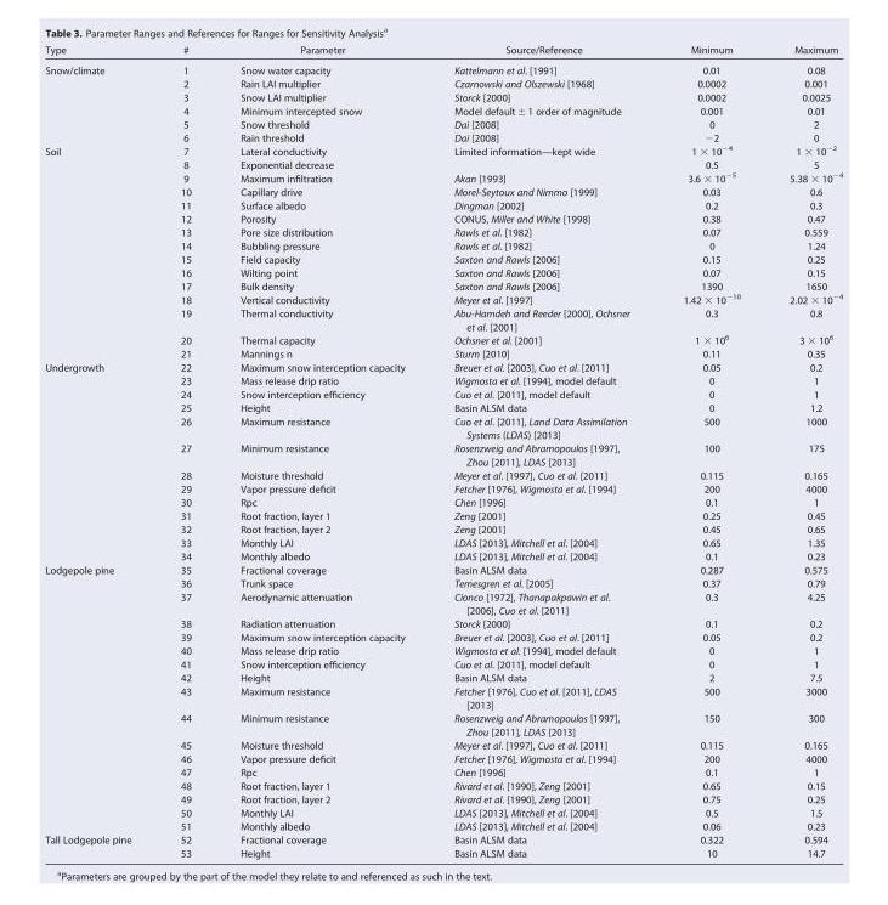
<table><thead><tr><td>Type</td><td>#</td><td>Parameter</td><td>Source/Reference</td><td>Minimum</td><td>Maximum</td></tr></thead><tbody><tr><td rowspan="6">Snow/climate</td><td>1</td><td>Snow water capacity</td><td>Kattelmann et al. [1991]</td><td>0.01</td><td>0.08</td></tr><tr><td>2</td><td>Rain LAI multiplier</td><td>Czarnowski and Olszewski [1968]</td><td>0.0002</td><td>0.001</td></tr><tr><td>3</td><td>Snow LAI multiplier</td><td>Storck [2000]</td><td>0.0002</td><td>0.0025</td></tr><tr><td>4</td><td>Minimum intercepted snow</td><td>Model default ± 1 order of magnitude</td><td>0.001</td><td>0.01</td></tr><tr><td>5</td><td>Snow threshold</td><td>Dai [2008]</td><td>0</td><td>2</td></tr><tr><td>6</td><td>Rain threshold</td><td>Dai [2008]</td><td>−2</td><td>0</td></tr><tr><td rowspan="15">Soil</td><td>7</td><td>Lateral conductivity</td><td rowspan="2">Limited information—kept wide</td><td>1 × 10<sup>−4</sup></td><td>1 × 10<sup>−2</sup></td></tr><tr><td>8</td><td>Exponential decrease</td><td>0.5</td><td>5</td></tr><tr><td>9</td><td>Maximum infiltration</td><td>Akan [1993]</td><td>3.6 × 10<sup>−5</sup></td><td>5.38 × 10<sup>−4</sup></td></tr><tr><td>10</td><td>Capillary drive</td><td>Morel-Seytoux and Nimmo [1999]</td><td>0.03</td><td>0.6</td></tr><tr><td>11</td><td>Surface albedo</td><td>Dingman [2002]</td><td>0.2</td><td>0.3</td></tr><tr><td>12</td><td>Porosity</td><td>CONUS, Miller and White [1998]</td><td>0.38</td><td>0.47</td></tr><tr><td>13</td><td>Pore size distribution</td><td>Rawls et al. [1982]</td><td>0.07</td><td>0.559</td></tr><tr><td>14</td><td>Bubbling pressure</td><td>Rawls et al. [1982]</td><td>0</td><td>1.24</td></tr><tr><td>15</td><td>Field capacity</td><td>Saxton and Rawls [2006]</td><td>0.15</td><td>0.25</td></tr><tr><td>16</td><td>Wilting point</td><td>Saxton and Rawls [2006]</td><td>0.07</td><td>0.15</td></tr><tr><td>17</td><td>Bulk density</td><td>Saxton and Rawls [2006]</td><td>1390</td><td>1650</td></tr><tr><td>18</td><td>Vertical conductivity</td><td>Meyer et al. [1997]</td><td>1.42 × 10<sup>−10</sup></td><td>2.02 × 10<sup>−4</sup></td></tr><tr><td>19</td><td>Thermal conductivity</td><td>Abu-Hamdeh and Reeder [2000], Ochsner et al. [2001]</td><td>0.3</td><td>0.8</td></tr><tr><td>20</td><td>Thermal capacity</td><td>Ochsner et al. [2001]</td><td>1 × 10<sup>6</sup></td><td>3 × 10<sup>6</sup></td></tr><tr><td>21</td><td>Mannings n</td><td>Sturm [2010]</td><td>0.11</td><td>0.35</td></tr><tr><td rowspan="13">Undergrowth</td><td>22</td><td>Maximum snow interception capacity</td><td>Breuer et al. [2003], Cuo et al. [2011]</td><td>0.05</td><td>0.2</td></tr><tr><td>23</td><td>Mass release drip ratio</td><td>Wigmosta et al. [1994], model default</td><td>0</td><td>1</td></tr><tr><td>24</td><td>Snow interception efficiency</td><td>Cuo et al. [2011], model default</td><td>0</td><td>1</td></tr><tr><td>25</td><td>Height</td><td>Basin ALSM data</td><td>0</td><td>1.2</td></tr><tr><td>26</td><td>Maximum resistance</td><td>Cuo et al. [2011], Land Data Assimilation Systems (LDAS) [2013]</td><td>500</td><td>1000</td></tr><tr><td>27</td><td>Minimum resistance</td><td>Rosenzweig and Abramopoulos [1997], Zhou [2011], LDAS [2013]</td><td>100</td><td>175</td></tr><tr><td>28</td><td>Moisture threshold</td><td>Meyer et al. [1997], Cuo et al. [2011]</td><td>0.115</td><td>0.165</td></tr><tr><td>29</td><td>Vapor pressure deficit</td><td>Fetcher [1976], Wigmosta et al. [1994]</td><td>200</td><td>4000</td></tr><tr><td>30</td><td>Rpc</td><td>Chen [1996]</td><td>0.1</td><td>1</td></tr><tr><td>31</td><td>Root fraction, layer 1</td><td>Zeng [2001]</td><td>0.25</td><td>0.45</td></tr><tr><td>32</td><td>Root fraction, layer 2</td><td>Zeng [2001]</td><td>0.45</td><td>0.65</td></tr><tr><td>33</td><td>Monthly LAI</td><td>LDAS [2013], Mitchell et al. [2004]</td><td>0.65</td><td>1.35</td></tr><tr><td>34</td><td>Monthly albedo</td><td>LDAS [2013], Mitchell et al. [2004]</td><td>0.1</td><td>0.23</td></tr><tr><td rowspan="17">Lodgepole pine</td><td>35</td><td>Fractional coverage</td><td>Basin ALSM data</td><td>0.287</td><td>0.575</td></tr><tr><td>36</td><td>Trunk space</td><td>Temesgren et al. [2005]</td><td>0.37</td><td>0.79</td></tr><tr><td>37</td><td>Aerodynamic attenuation</td><td>Cionco [1972], Thanapakpawin et al. [2006], Cuo et al. [2011]</td><td>0.3</td><td>4.25</td></tr><tr><td>38</td><td>Radiation attenuation</td><td>Storck [2000]</td><td>0.1</td><td>0.2</td></tr><tr><td>39</td><td>Maximum snow interception capacity</td><td>Breuer et al. [2003], Cuo et al. [2011]</td><td>0.05</td><td>0.2</td></tr><tr><td>40</td><td>Mass release drip ratio</td><td>Wigmosta et al. [1994], model default</td><td>0</td><td>1</td></tr><tr><td>41</td><td>Snow interception efficiency</td><td>Cuo et al. [2011], model default</td><td>0</td><td>1</td></tr><tr><td>42</td><td>Height</td><td>Basin ALSM data</td><td>2</td><td>7.5</td></tr><tr><td>43</td><td>Maximum resistance</td><td>Fetcher [1976], Cuo et al. [2011], LDAS [2013]</td><td>500</td><td>3000</td></tr><tr><td>44</td><td>Minimum resistance</td><td>Rosenzweig and Abramopoulos [1997], Zhou [2011], LDAS [2013]</td><td>150</td><td>300</td></tr><tr><td>45</td><td>Moisture threshold</td><td>Meyer et al. [1997], Cuo et al. [2011]</td><td>0.115</td><td>0.165</td></tr><tr><td>46</td><td>Vapor pressure deficit</td><td>Fetcher [1976], Wigmosta et al. [1994]</td><td>200</td><td>4000</td></tr><tr><td>47</td><td>Rpc</td><td>Chen [1996]</td><td>0.1</td><td>1</td></tr><tr><td>48</td><td>Root fraction, layer 1</td><td>Rivard et al. [1990], Zeng [2001]</td><td>0.65</td><td>0.15</td></tr><tr><td>49</td><td>Root fraction, layer 2</td><td>Rivard et al. [1990], Zeng [2001]</td><td>0.75</td><td>0.25</td></tr><tr><td>50</td><td>Monthly LAI</td><td>LDAS [2013], Mitchell et al. [2004]</td><td>0.5</td><td>1.5</td></tr><tr><td>51</td><td>Monthly albedo</td><td>LDAS [2013], Mitchell et al. [2004]</td><td>0.06</td><td>0.23</td></tr><tr><td rowspan="2">Tall Lodgepole pine</td><td>52</td><td>Fractional coverage</td><td>Basin ALSM data</td><td>0.322</td><td>0.594</td></tr><tr><td>53</td><td>Height</td><td>Basin ALSM data</td><td>10</td><td>14.7</td></tr></tbody></table>